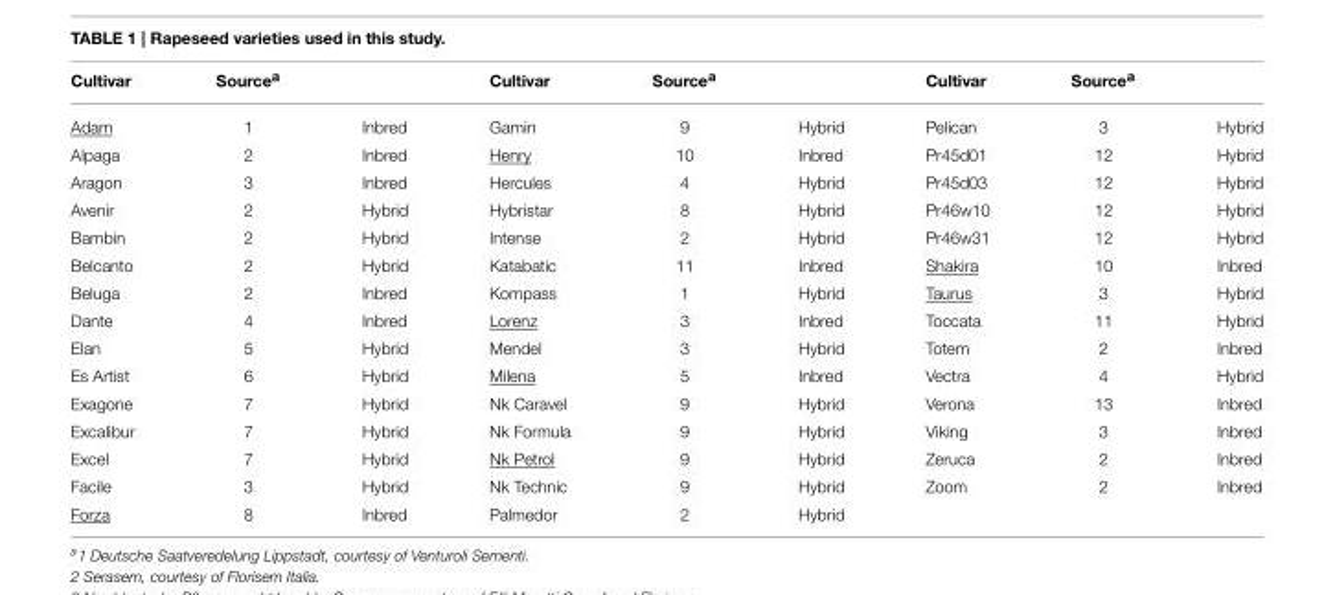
<table><thead><tr><td>Cultivar</td><td>Source<sup>a</sup></td><td></td><td>Cultivar</td><td>Source<sup>a</sup></td><td></td><td>Cultivar</td><td>Source<sup>a</sup></td><td></td></tr></thead><tbody><tr><td>Adam</td><td>1</td><td>Inbred</td><td>Gamin</td><td>9</td><td>Hybrid</td><td>Pelican</td><td>3</td><td>Hybrid</td></tr><tr><td>Alpaga</td><td>2</td><td>Inbred</td><td>Henry</td><td>10</td><td>Inbred</td><td>Pr45d01</td><td>12</td><td>Hybrid</td></tr><tr><td>Aragon</td><td>3</td><td>Inbred</td><td>Hercules</td><td>4</td><td>Hybrid</td><td>Pr45d03</td><td>12</td><td>Hybrid</td></tr><tr><td>Avenir</td><td>2</td><td>Hybrid</td><td>Hybristar</td><td>8</td><td>Hybrid</td><td>Pr46w10</td><td>12</td><td>Hybrid</td></tr><tr><td>Bambin</td><td>2</td><td>Hybrid</td><td>Intense</td><td>2</td><td>Hybrid</td><td>Pr46w31</td><td>12</td><td>Hybrid</td></tr><tr><td>Belcanto</td><td>2</td><td>Hybrid</td><td>Katabatic</td><td>11</td><td>Inbred</td><td>Shakira</td><td>10</td><td>Inbred</td></tr><tr><td>Beluga</td><td>2</td><td>Inbred</td><td>Kompass</td><td>1</td><td>Hybrid</td><td>Taurus</td><td>3</td><td>Hybrid</td></tr><tr><td>Dante</td><td>4</td><td>Inbred</td><td>Lorenz</td><td>3</td><td>Inbred</td><td>Toccata</td><td>11</td><td>Hybrid</td></tr><tr><td>Elan</td><td>5</td><td>Hybrid</td><td>Mendel</td><td>3</td><td>Hybrid</td><td>Totem</td><td>2</td><td>Inbred</td></tr><tr><td>Es Artist</td><td>6</td><td>Hybrid</td><td>Milena</td><td>5</td><td>Inbred</td><td>Vectra</td><td>4</td><td>Hybrid</td></tr><tr><td>Exagone</td><td>7</td><td>Hybrid</td><td>Nk Caravel</td><td>9</td><td>Hybrid</td><td>Verona</td><td>13</td><td>Inbred</td></tr><tr><td>Excalibur</td><td>7</td><td>Hybrid</td><td>Nk Formula</td><td>9</td><td>Hybrid</td><td>Viking</td><td>3</td><td>Inbred</td></tr><tr><td>Excel</td><td>7</td><td>Hybrid</td><td>Nk Petrol</td><td>9</td><td>Hybrid</td><td>Zeruca</td><td>2</td><td>Inbred</td></tr><tr><td>Facile</td><td>3</td><td>Hybrid</td><td>Nk Technic</td><td>9</td><td>Hybrid</td><td>Zoom</td><td>2</td><td>Inbred</td></tr><tr><td>Forza</td><td>8</td><td>Inbred</td><td>Palmedor</td><td>2</td><td>Hybrid</td><td></td><td></td><td></td></tr></tbody></table>